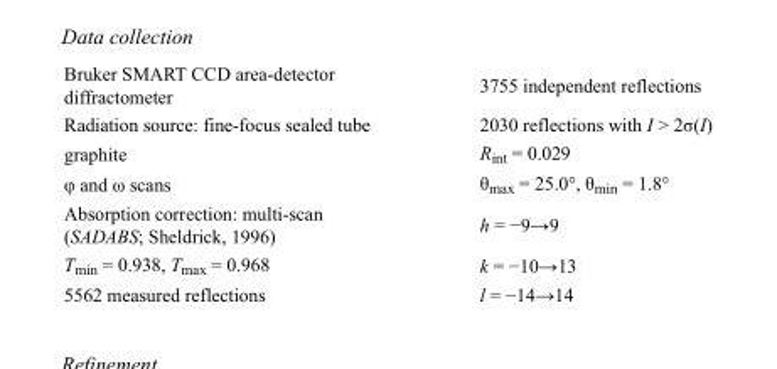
<table><tbody><tr><td>Bruker SMART CCD area-detector diffractometer</td><td>3755 independent reflections</td></tr><tr><td>Radiation source: fine-focus sealed tube</td><td>2030 reflections with I &gt; 2σ(I)</td></tr><tr><td>graphite</td><td>R<sub>int</sub> = 0.029</td></tr><tr><td>φ and ω scans</td><td>θ<sub>max</sub> = 25.0°, θ<sub>min</sub> = 1.8°</td></tr><tr><td>Absorption correction: multi-scan (SADABS; Sheldrick, 1996)</td><td>h = −9→9</td></tr><tr><td>T<sub>min</sub> = 0.938, T<sub>max</sub> = 0.968</td><td>k = −10→13</td></tr><tr><td>5562 measured reflections</td><td>l = −14→14</td></tr></tbody></table>